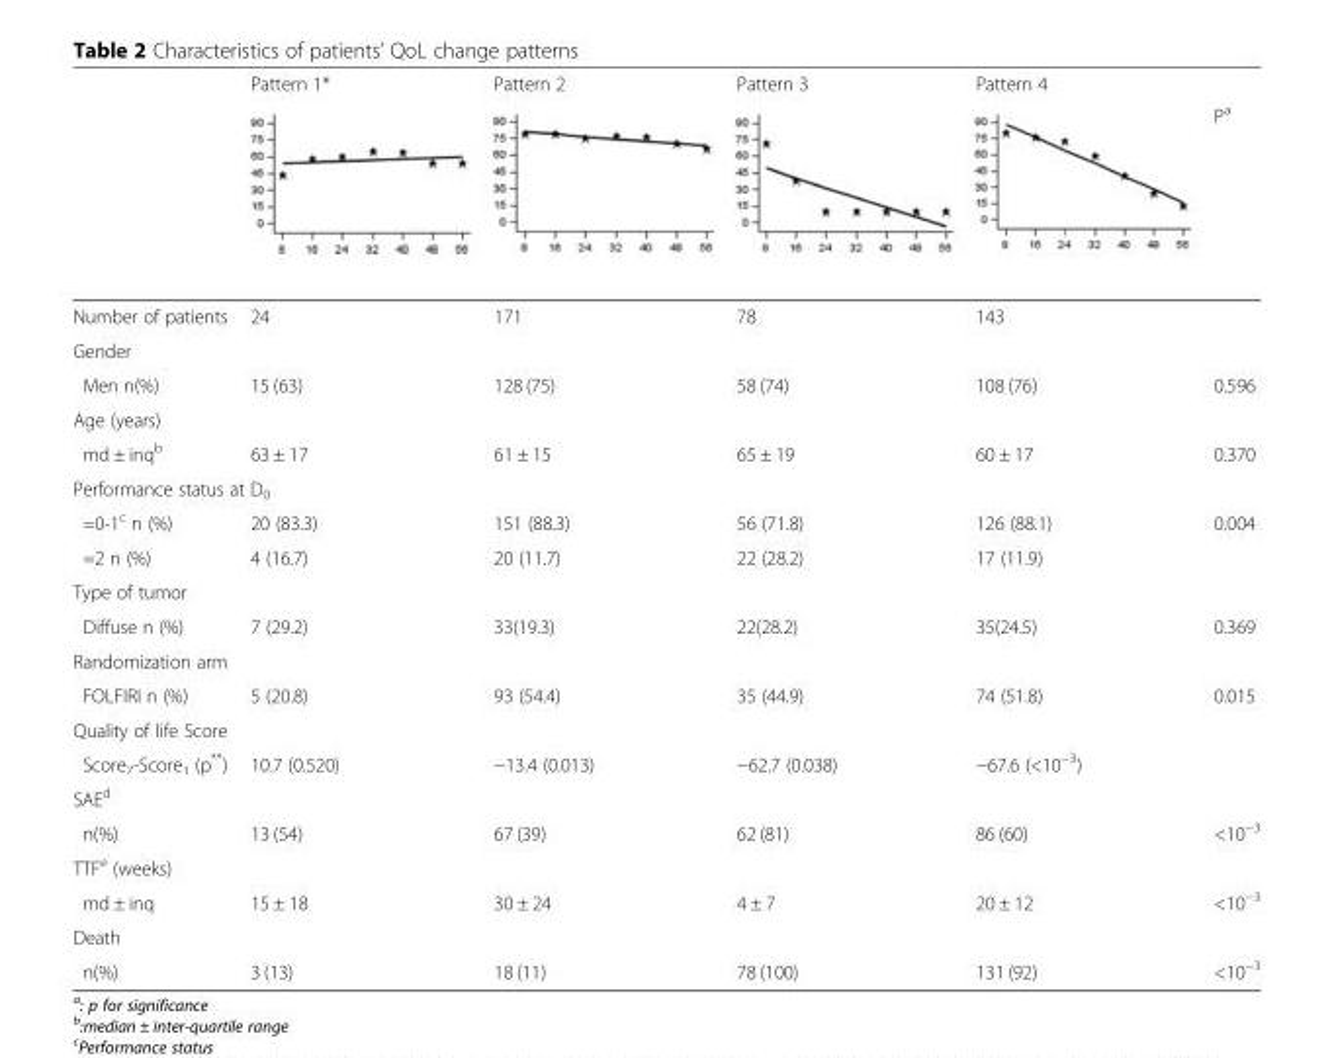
<table><thead><tr><td rowspan="2"></td><td rowspan="2">Pattern 1*</td><td rowspan="2">Pattern 2</td><td rowspan="2">Pattern 3</td><td rowspan="2">Pattern 4</td><td rowspan="2">P<sup>a</sup></td></tr><tr></tr></thead><tbody><tr><td>Number of patients</td><td>24</td><td>171</td><td>78</td><td>143</td><td></td></tr><tr><td colspan="6">Gender</td></tr><tr><td>Men n(%)</td><td>15 (63)</td><td>128 (75)</td><td>58 (74)</td><td>108 (76)</td><td>0.596</td></tr><tr><td colspan="6">Age (years)</td></tr><tr><td>md ± inq<sup>b</sup></td><td>63 ± 17</td><td>61 ± 15</td><td>65 ± 19</td><td>60 ± 17</td><td>0.370</td></tr><tr><td colspan="6">Performance status at D<sub>0</sub></td></tr><tr><td>=0-1<sup>c</sup> n (%)</td><td>20 (83.3)</td><td>151 (88.3)</td><td>56 (71.8)</td><td>126 (88.1)</td><td rowspan="2">0.004</td></tr><tr><td>=2 n (%)</td><td>4 (16.7)</td><td>20 (11.7)</td><td>22 (28.2)</td><td>17 (11.9)</td></tr><tr><td colspan="6">Type of tumor</td></tr><tr><td>Diffuse n (%)</td><td>7 (29.2)</td><td>33(19.3)</td><td>22(28.2)</td><td>35(24.5)</td><td>0.369</td></tr><tr><td colspan="6">Randomization arm</td></tr><tr><td>FOLFIRI n (%)</td><td>5 (20.8)</td><td>93 (54.4)</td><td>35 (44.9)</td><td>74 (51.8)</td><td>0.015</td></tr><tr><td colspan="6">Quality of life Score</td></tr><tr><td>Score<sub>7</sub>-Score<sub>1</sub> (p**)</td><td>10.7 (0.520)</td><td>−13.4 (0.013)</td><td>−62.7 (0.038)</td><td>−67.6 (&lt;10<sup>−3</sup>)</td><td></td></tr><tr><td colspan="6">SAE<sup>d</sup></td></tr><tr><td>n(%)</td><td>13 (54)</td><td>67 (39)</td><td>62 (81)</td><td>86 (60)</td><td>&lt;10<sup>−3</sup></td></tr><tr><td colspan="6">TTF<sup>e</sup> (weeks)</td></tr><tr><td>md ± inq</td><td>15 ± 18</td><td>30 ± 24</td><td>4 ± 7</td><td>20 ± 12</td><td>&lt;10<sup>−3</sup></td></tr><tr><td colspan="6">Death</td></tr><tr><td>n(%)</td><td>3 (13)</td><td>18 (11)</td><td>78 (100)</td><td>131 (92)</td><td>&lt;10<sup>−3</sup></td></tr></tbody></table>